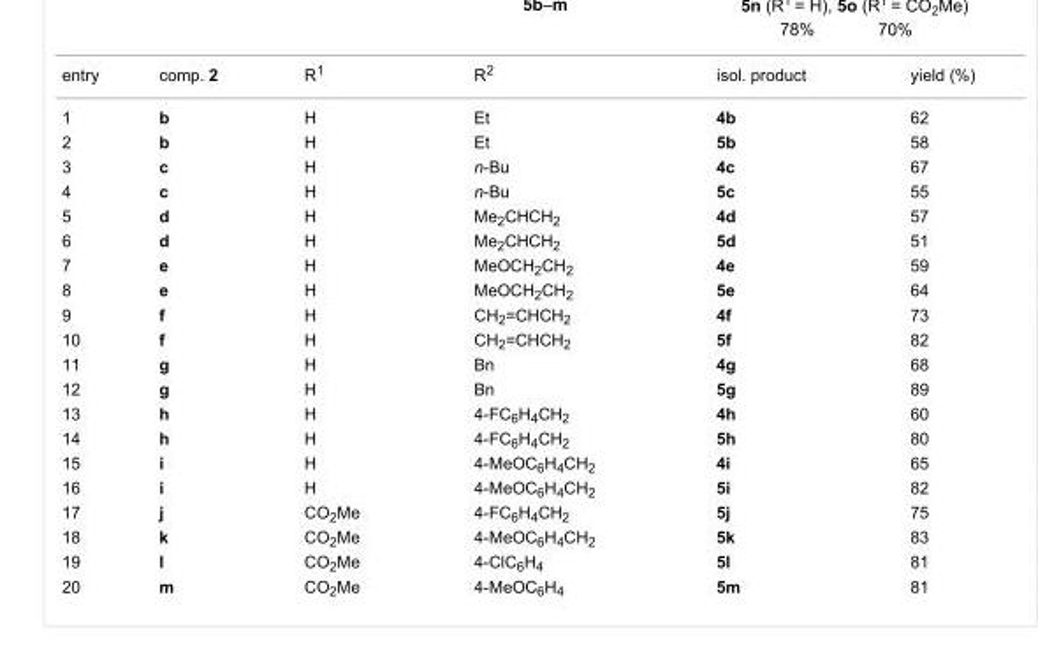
<table><tbody><tr><td>entry</td><td>comp. 2</td><td>R<sup>1</sup></td><td>R<sup>2</sup></td><td>isol. product</td><td>yield (%)</td></tr><tr><td>1</td><td>b</td><td>H</td><td>Et</td><td>4b</td><td>62</td></tr><tr><td>2</td><td>b</td><td>H</td><td>Et</td><td>5b</td><td>58</td></tr><tr><td>3</td><td>c</td><td>H</td><td>n-Bu</td><td>4c</td><td>67</td></tr><tr><td>4</td><td>c</td><td>H</td><td>n-Bu</td><td>5c</td><td>55</td></tr><tr><td>5</td><td>d</td><td>H</td><td>Me<sub>2</sub>CHCH<sub>2</sub></td><td>4d</td><td>57</td></tr><tr><td>6</td><td>d</td><td>H</td><td>Me<sub>2</sub>CHCH<sub>2</sub></td><td>5d</td><td>51</td></tr><tr><td>7</td><td>e</td><td>H</td><td>MeOCH<sub>2</sub>CH<sub>2</sub></td><td>4e</td><td>59</td></tr><tr><td>8</td><td>e</td><td>H</td><td>MeOCH<sub>2</sub>CH<sub>2</sub></td><td>5e</td><td>64</td></tr><tr><td>9</td><td>f</td><td>H</td><td>CH<sub>2</sub>=CHCH<sub>2</sub></td><td>4f</td><td>73</td></tr><tr><td>10</td><td>f</td><td>H</td><td>CH<sub>2</sub>=CHCH<sub>2</sub></td><td>5f</td><td>82</td></tr><tr><td>11</td><td>g</td><td>H</td><td>Bn</td><td>4g</td><td>68</td></tr><tr><td>12</td><td>g</td><td>H</td><td>Bn</td><td>5g</td><td>89</td></tr><tr><td>13</td><td>h</td><td>H</td><td>4-FC<sub>6</sub>H<sub>4</sub>CH<sub>2</sub></td><td>4h</td><td>60</td></tr><tr><td>14</td><td>h</td><td>H</td><td>4-FC<sub>6</sub>H<sub>4</sub>CH<sub>2</sub></td><td>5h</td><td>80</td></tr><tr><td>15</td><td>i</td><td>H</td><td>4-MeOC<sub>6</sub>H<sub>4</sub>CH<sub>2</sub></td><td>4i</td><td>65</td></tr><tr><td>16</td><td>i</td><td>H</td><td>4-MeOC<sub>6</sub>H<sub>4</sub>CH<sub>2</sub></td><td>5i</td><td>82</td></tr><tr><td>17</td><td>j</td><td>CO<sub>2</sub>Me</td><td>4-FC<sub>6</sub>H<sub>4</sub>CH<sub>2</sub></td><td>5j</td><td>75</td></tr><tr><td>18</td><td>k</td><td>CO<sub>2</sub>Me</td><td>4-MeOC<sub>6</sub>H<sub>4</sub>CH<sub>2</sub></td><td>5k</td><td>83</td></tr><tr><td>19</td><td>l</td><td>CO<sub>2</sub>Me</td><td>4-ClC<sub>6</sub>H<sub>4</sub></td><td>5l</td><td>81</td></tr><tr><td>20</td><td>m</td><td>CO<sub>2</sub>Me</td><td>4-MeOC<sub>6</sub>H<sub>4</sub></td><td>5m</td><td>81</td></tr></tbody></table>